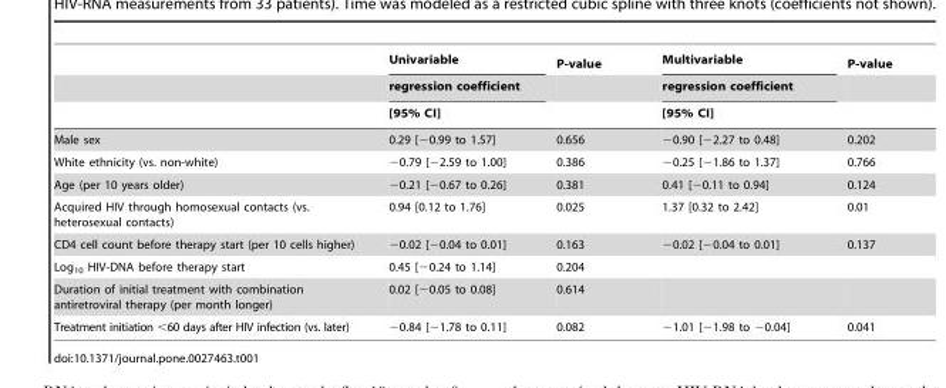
<table><thead><tr><td rowspan="3"></td><td rowspan="3">Univariable regression coefficient [95% CI]</td><td rowspan="3">P-value</td><td rowspan="3">Multivariable regression coefficient [95% CI]</td><td rowspan="3">P-value</td></tr><tr></tr><tr></tr></thead><tbody><tr><td>Male sex</td><td>0.29 [−0.99 to 1.57]</td><td>0.656</td><td>−0.90 [−2.27 to 0.48]</td><td>0.202</td></tr><tr><td>White ethnicity (vs. non-white)</td><td>−0.79 [−2.59 to 1.00]</td><td>0.386</td><td>−0.25 [−1.86 to 1.37]</td><td>0.766</td></tr><tr><td>Age (per 10 years older)</td><td>−0.21 [−0.67 to 0.26]</td><td>0.381</td><td>0.41 [−0.11 to 0.94]</td><td>0.124</td></tr><tr><td>Acquired HIV through homosexual contacts (vs. heterosexual contacts)</td><td>0.94 [0.12 to 1.76]</td><td>0.025</td><td>1.37 [0.32 to 2.42]</td><td>0.01</td></tr><tr><td>CD4 cell count before therapy start (per 10 cells higher)</td><td>−0.02 [−0.04 to 0.01]</td><td>0.163</td><td>−0.02 [−0.04 to 0.01]</td><td>0.137</td></tr><tr><td>Log<sub>10</sub> HIV-DNA before therapy start</td><td>0.45 [−0.24 to 1.14]</td><td>0.204</td><td></td><td></td></tr><tr><td>Duration of initial treatment with combination antiretroviral therapy (per month longer)</td><td>0.02 [−0.05 to 0.08]</td><td>0.614</td><td></td><td></td></tr><tr><td>Treatment initiation &lt;60 days after HIV infection (vs. later)</td><td>−0.84 [−1.78 to 0.11]</td><td>0.082</td><td>−1.01 [−1.98 to −0.04]</td><td>0.041</td></tr></tbody></table>